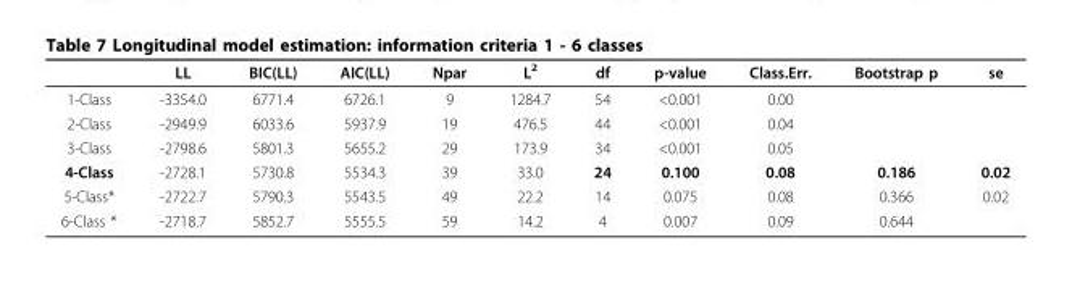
<table><thead><tr><td></td><td>LL</td><td>BIC(LL)</td><td>AIC(LL)</td><td>Npar</td><td>L<sup>2</sup></td><td>df</td><td>p-value</td><td>Class.Err.</td><td>Bootstrap p</td><td>se</td></tr></thead><tbody><tr><td>1-Class</td><td>-3354.0</td><td>6771.4</td><td>6726.1</td><td>9</td><td>1284.7</td><td>54</td><td>&lt;0.001</td><td>0.00</td><td></td><td></td></tr><tr><td>2-Class</td><td>-2949.9</td><td>6033.6</td><td>5937.9</td><td>19</td><td>476.5</td><td>44</td><td>&lt;0.001</td><td>0.04</td><td></td><td></td></tr><tr><td>3-Class</td><td>-2798.6</td><td>5801.3</td><td>5655.2</td><td>29</td><td>173.9</td><td>34</td><td>&lt;0.001</td><td>0.05</td><td></td><td></td></tr><tr><td>4-Class</td><td>-2728.1</td><td>5730.8</td><td>5534.3</td><td>39</td><td>33.0</td><td>24</td><td>0.100</td><td>0.08</td><td>0.186</td><td>0.02</td></tr><tr><td>5-Class*</td><td>-2722.7</td><td>5790.3</td><td>5543.5</td><td>49</td><td>22.2</td><td>14</td><td>0.075</td><td>0.08</td><td>0.366</td><td>0.02</td></tr><tr><td>6-Class *</td><td>-2718.7</td><td>5852.7</td><td>5555.5</td><td>59</td><td>14.2</td><td>4</td><td>0.007</td><td>0.09</td><td>0.644</td><td></td></tr></tbody></table>